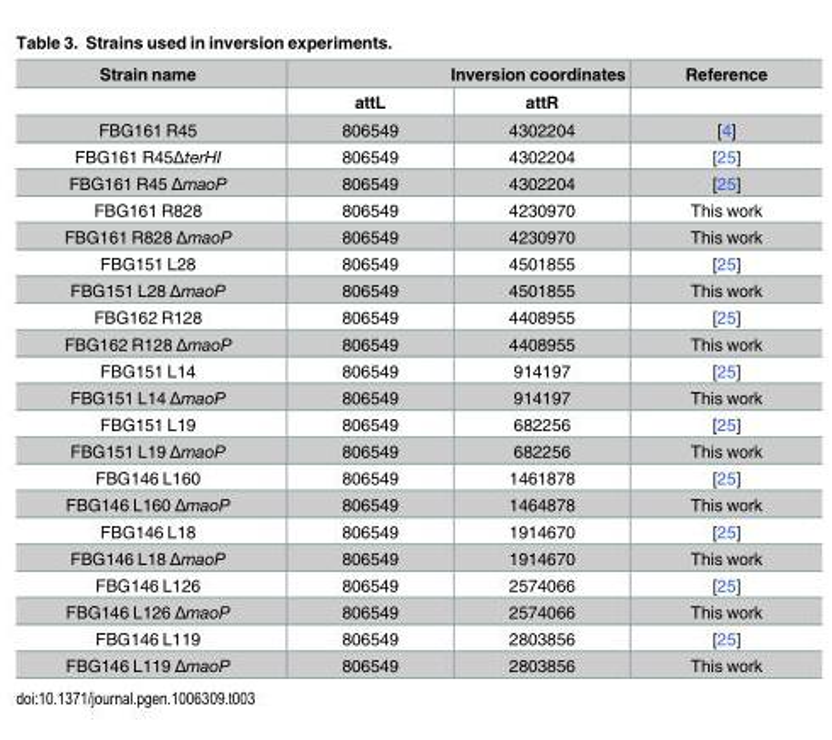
<table><thead><tr><td rowspan="2">Strain name</td><td colspan="2">Inversion coordinates</td><td rowspan="2">Reference</td></tr><tr><td>attL</td><td>attR</td></tr></thead><tbody><tr><td>FBG161 R45</td><td>806549</td><td>4302204</td><td>[4]</td></tr><tr><td>FBG161 R45ΔterHI</td><td>806549</td><td>4302204</td><td>[25]</td></tr><tr><td>FBG161 R45 ΔmaoP</td><td>806549</td><td>4302204</td><td>[25]</td></tr><tr><td>FBG161 R828</td><td>806549</td><td>4230970</td><td>This work</td></tr><tr><td>FBG161 R828 ΔmaoP</td><td>806549</td><td>4230970</td><td>This work</td></tr><tr><td>FBG151 L28</td><td>806549</td><td>4501855</td><td>[25]</td></tr><tr><td>FBG151 L28 ΔmaoP</td><td>806549</td><td>4501855</td><td>This work</td></tr><tr><td>FBG162 R128</td><td>806549</td><td>4408955</td><td>[25]</td></tr><tr><td>FBG162 R128 ΔmaoP</td><td>806549</td><td>4408955</td><td>This work</td></tr><tr><td>FBG151 L14</td><td>806549</td><td>914197</td><td>[25]</td></tr><tr><td>FBG151 L14 ΔmaoP</td><td>806549</td><td>914197</td><td>This work</td></tr><tr><td>FBG151 L19</td><td>806549</td><td>682256</td><td>[25]</td></tr><tr><td>FBG151 L19 ΔmaoP</td><td>806549</td><td>682256</td><td>This work</td></tr><tr><td>FBG146 L160</td><td>806549</td><td>1461878</td><td>[25]</td></tr><tr><td>FBG146 L160 ΔmaoP</td><td>806549</td><td>1464878</td><td>This work</td></tr><tr><td>FBG146 L18</td><td>806549</td><td>1914670</td><td>[25]</td></tr><tr><td>FBG146 L18 ΔmaoP</td><td>806549</td><td>1914670</td><td>This work</td></tr><tr><td>FBG146 L126</td><td>806549</td><td>2574066</td><td>[25]</td></tr><tr><td>FBG146 L126 ΔmaoP</td><td>806549</td><td>2574066</td><td>This work</td></tr><tr><td>FBG146 L119</td><td>806549</td><td>2803856</td><td>[25]</td></tr><tr><td>FBG146 L119 ΔmaoP</td><td>806549</td><td>2803856</td><td>This work</td></tr></tbody></table>